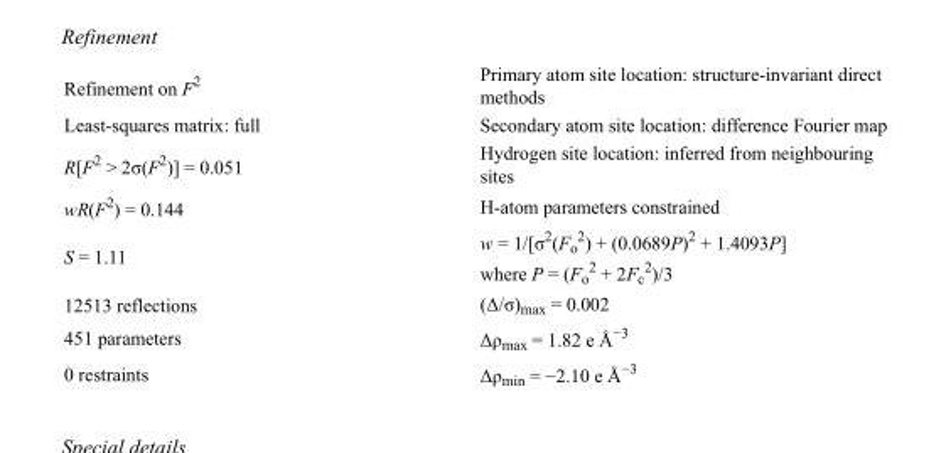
<table><tbody><tr><td>Refinement on F<sup>2</sup></td><td>Primary atom site location: structure-invariant direct methods</td></tr><tr><td>Least-squares matrix: full</td><td>Secondary atom site location: difference Fourier map</td></tr><tr><td>R[F<sup>2</sup> &gt; 2σ(F<sup>2</sup>)] = 0.051</td><td>Hydrogen site location: inferred from neighbouring sites</td></tr><tr><td>wR(F<sup>2</sup>) = 0.144</td><td>H-atom parameters constrained</td></tr><tr><td>S = 1.11</td><td>w = 1/[σ<sup>2</sup>(F<sub>o</sub> <sup>2</sup>) + (0.0689P)<sup>2</sup> + 1.4093P] where P = (F<sub>o</sub> <sup>2</sup> + 2F<sub>c</sub> <sup>2</sup>)/3</td></tr><tr><td>12513 reflections</td><td>(Δ/σ)<sub>max</sub> = 0.002</td></tr><tr><td>451 parameters</td><td>Δρ<sub>max</sub> = 1.82 e Å<sup>−3</sup></td></tr><tr><td>0 restraints</td><td>Δρ<sub>min</sub> = −2.10 e Å<sup>−3</sup></td></tr></tbody></table>